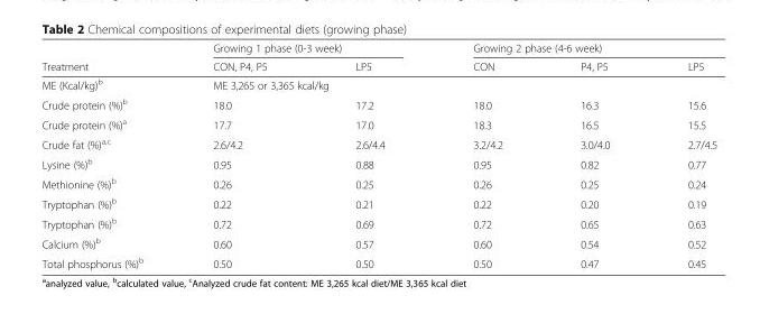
<table><thead><tr><td rowspan="2">Treatment</td><td colspan="2">Growing 1 phase (0-3 week)</td><td colspan="3">Growing 2 phase (4-6 week)</td></tr><tr><td>CON, P4, P5</td><td>LP5</td><td>CON</td><td>P4, P5</td><td>LP5</td></tr></thead><tbody><tr><td>ME (Kcal/kg)<sup>b</sup></td><td colspan="5">ME 3,265 or 3,365 kcal/kg</td></tr><tr><td>Crude protein (%)<sup>b</sup></td><td>18.0</td><td>17.2</td><td>18.0</td><td>16.3</td><td>15.6</td></tr><tr><td>Crude protein (%)<sup>a</sup></td><td>17.7</td><td>17.0</td><td>18.3</td><td>16.5</td><td>15.5</td></tr><tr><td>Crude fat (%)<sup>a,c</sup></td><td>2.6/4.2</td><td>2.6/4.4</td><td>3.2/4.2</td><td>3.0/4.0</td><td>2.7/4.5</td></tr><tr><td>Lysine (%)<sup>b</sup></td><td>0.95</td><td>0.88</td><td>0.95</td><td>0.82</td><td>0.77</td></tr><tr><td>Methionine (%)<sup>b</sup></td><td>0.26</td><td>0.25</td><td>0.26</td><td>0.25</td><td>0.24</td></tr><tr><td>Tryptophan (%)<sup>b</sup></td><td>0.22</td><td>0.21</td><td>0.22</td><td>0.20</td><td>0.19</td></tr><tr><td>Tryptophan (%)<sup>b</sup></td><td>0.72</td><td>0.69</td><td>0.72</td><td>0.65</td><td>0.63</td></tr><tr><td>Calcium (%)<sup>b</sup></td><td>0.60</td><td>0.57</td><td>0.60</td><td>0.54</td><td>0.52</td></tr><tr><td>Total phosphorus (%)<sup>b</sup></td><td>0.50</td><td>0.50</td><td>0.50</td><td>0.47</td><td>0.45</td></tr></tbody></table>